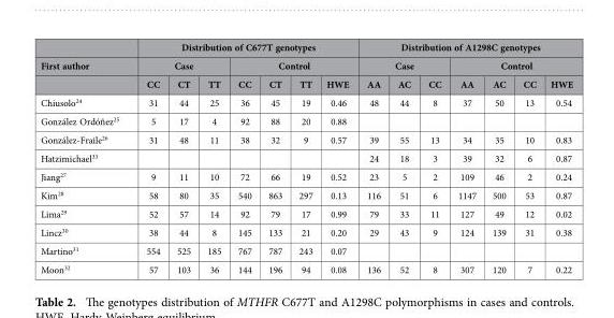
<table><thead><tr><td rowspan="3">First author</td><td colspan="7">Distribution of C677T genotypes</td><td colspan="7">Distribution of A1298C genotypes</td></tr><tr><td colspan="3">Case</td><td colspan="4">Control</td><td colspan="3">Case</td><td colspan="4">Control</td></tr><tr><td>CC</td><td>CT</td><td>TT</td><td>CC</td><td>CT</td><td>TT</td><td>HWE</td><td>AA</td><td>AC</td><td>CC</td><td>AA</td><td>AC</td><td>CC</td><td>HWE</td></tr></thead><tbody><tr><td>Chiusolo<sup>24</sup></td><td>31</td><td>44</td><td>25</td><td>36</td><td>45</td><td>19</td><td>0.46</td><td>48</td><td>44</td><td>8</td><td>37</td><td>50</td><td>13</td><td>0.54</td></tr><tr><td>González Ordóñez<sup>25</sup></td><td>5</td><td>17</td><td>4</td><td>92</td><td>88</td><td>20</td><td>0.88</td><td></td><td></td><td></td><td></td><td></td><td></td><td></td></tr><tr><td>González-Fraile<sup>26</sup></td><td>31</td><td>48</td><td>11</td><td>38</td><td>32</td><td>9</td><td>0.57</td><td>39</td><td>55</td><td>13</td><td>34</td><td>35</td><td>10</td><td>0.83</td></tr><tr><td>Hatzimichael33</td><td></td><td></td><td></td><td></td><td></td><td></td><td></td><td>24</td><td>18</td><td>3</td><td>39</td><td>32</td><td>6</td><td>0.87</td></tr><tr><td>Jiang27</td><td>9</td><td>11</td><td>10</td><td>72</td><td>66</td><td>19</td><td>0.52</td><td>23</td><td>5</td><td>2</td><td>109</td><td>46</td><td>2</td><td>0.24</td></tr><tr><td>Kim28</td><td>58</td><td>80</td><td>35</td><td>540</td><td>863</td><td>297</td><td>0.13</td><td>116</td><td>51</td><td>6</td><td>1147</td><td>500</td><td>53</td><td>0.87</td></tr><tr><td>Lima29</td><td>52</td><td>57</td><td>14</td><td>92</td><td>79</td><td>17</td><td>0.99</td><td>79</td><td>33</td><td>11</td><td>127</td><td>49</td><td>12</td><td>0.02</td></tr><tr><td>Lincz30</td><td>38</td><td>44</td><td>8</td><td>145</td><td>133</td><td>21</td><td>0.20</td><td>29</td><td>43</td><td>9</td><td>124</td><td>139</td><td>31</td><td>0.38</td></tr><tr><td>Martino31</td><td>554</td><td>525</td><td>185</td><td>767</td><td>787</td><td>243</td><td>0.07</td><td></td><td></td><td></td><td></td><td></td><td></td><td></td></tr><tr><td>Moon32</td><td>57</td><td>103</td><td>36</td><td>144</td><td>196</td><td>94</td><td>0.08</td><td>136</td><td>52</td><td>8</td><td>307</td><td>120</td><td>7</td><td>0.22</td></tr></tbody></table>